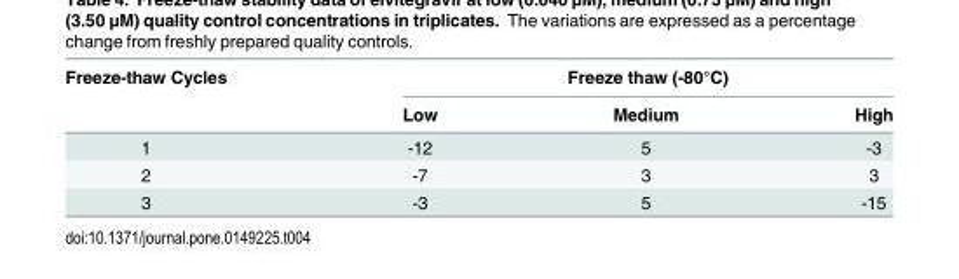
<table><thead><tr><td rowspan="2">Freeze-thaw Cycles</td><td colspan="3">Freeze thaw (-80°C)</td></tr><tr><td>Low</td><td>Medium</td><td>High</td></tr></thead><tbody><tr><td>1</td><td>-12</td><td>5</td><td>-3</td></tr><tr><td>2</td><td>-7</td><td>3</td><td>3</td></tr><tr><td>3</td><td>-3</td><td>5</td><td>-15</td></tr></tbody></table>